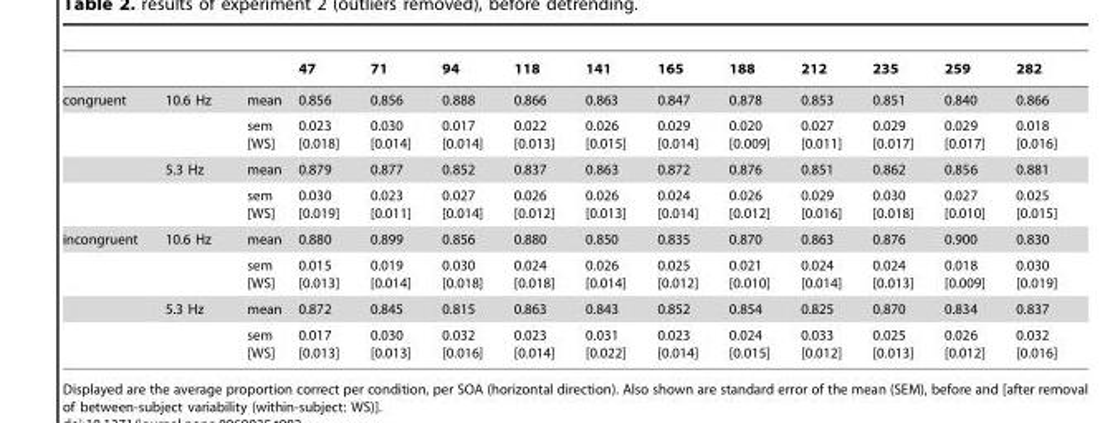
<table><thead><tr><td></td><td></td><td></td><td>47</td><td>71</td><td>94</td><td>118</td><td>141</td><td>165</td><td>188</td><td>212</td><td>235</td><td>259</td><td>282</td></tr></thead><tbody><tr><td rowspan="4">congruent</td><td>10.6 Hz</td><td>mean</td><td>0.856</td><td>0.856</td><td>0.888</td><td>0.866</td><td>0.863</td><td>0.847</td><td>0.878</td><td>0.853</td><td>0.851</td><td>0.840</td><td>0.866</td></tr><tr><td></td><td>sem [WS]</td><td>0.023 [0.018]</td><td>0.030 [0.014]</td><td>0.017 [0.014]</td><td>0.022 [0.013]</td><td>0.026 [0.015]</td><td>0.029 [0.014]</td><td>0.020 [0.009]</td><td>0.027 [0.011]</td><td>0.029 [0.017]</td><td>0.029 [0.017]</td><td>0.018 [0.016]</td></tr><tr><td>5.3 Hz</td><td>mean</td><td>0.879</td><td>0.877</td><td>0.852</td><td>0.837</td><td>0.863</td><td>0.872</td><td>0.876</td><td>0.851</td><td>0.862</td><td>0.856</td><td>0.881</td></tr><tr><td></td><td>sem [WS]</td><td>0.030 [0.019]</td><td>0.023 [0.011]</td><td>0.027 [0.014]</td><td>0.026 [0.012]</td><td>0.026 [0.013]</td><td>0.024 [0.014]</td><td>0.026 [0.012]</td><td>0.029 [0.016]</td><td>0.030 [0.018]</td><td>0.027 [0.010]</td><td>0.025 [0.015]</td></tr><tr><td rowspan="4">incongruent</td><td>10.6 Hz</td><td>mean</td><td>0.880</td><td>0.899</td><td>0.856</td><td>0.880</td><td>0.850</td><td>0.835</td><td>0.870</td><td>0.863</td><td>0.876</td><td>0.900</td><td>0.830</td></tr><tr><td></td><td>sem [WS]</td><td>0.015 [0.013]</td><td>0.019 [0.014]</td><td>0.030 [0.018]</td><td>0.024 [0.018]</td><td>0.026 [0.014]</td><td>0.025 [0.012]</td><td>0.021 [0.010]</td><td>0.024 [0.014]</td><td>0.024 [0.013]</td><td>0.018 [0.009]</td><td>0.030 [0.019]</td></tr><tr><td>5.3 Hz</td><td>mean</td><td>0.872</td><td>0.845</td><td>0.815</td><td>0.863</td><td>0.843</td><td>0.852</td><td>0.854</td><td>0.825</td><td>0.870</td><td>0.834</td><td>0.837</td></tr><tr><td></td><td>sem [WS]</td><td>0.017 [0.013]</td><td>0.030 [0.013]</td><td>0.032 [0.016]</td><td>0.023 [0.014]</td><td>0.031 [0.022]</td><td>0.023 [0.014]</td><td>0.024 [0.015]</td><td>0.033 [0.012]</td><td>0.025 [0.013]</td><td>0.026 [0.012]</td><td>0.032 [0.016]</td></tr></tbody></table>